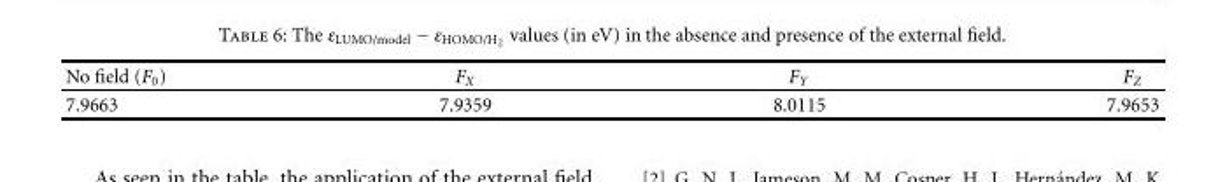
<table><thead><tr><td>No field (F<sub>0</sub>)</td><td>F<sub>X</sub></td><td>F<sub>Y</sub></td><td>F<sub>Z</sub></td></tr></thead><tbody><tr><td>7.9663</td><td>7.9359</td><td>8.0115</td><td>7.9653</td></tr></tbody></table>